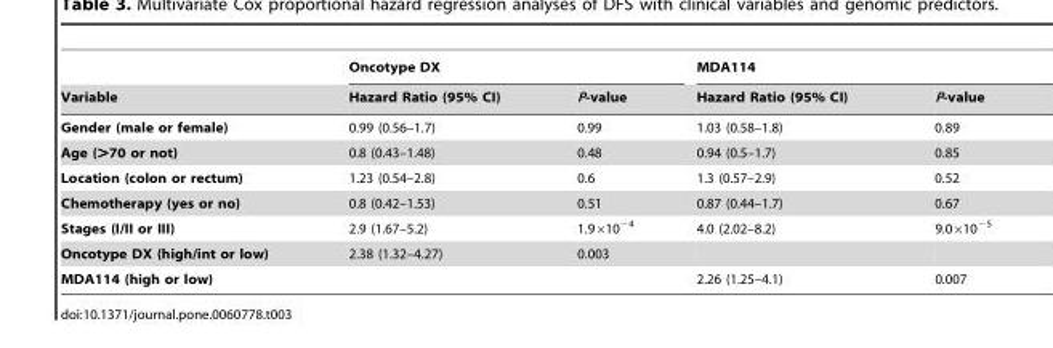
<table><thead><tr><td rowspan="2">Variable</td><td colspan="2">Oncotype DX</td><td colspan="2">MDA114</td></tr><tr><td>Hazard Ratio (95% CI)</td><td>P-value</td><td>Hazard Ratio (95% CI)</td><td>P-value</td></tr></thead><tbody><tr><td>Gender (male or female)</td><td>0.99 (0.56–1.7)</td><td>0.99</td><td>1.03 (0.58–1.8)</td><td>0.89</td></tr><tr><td>Age (&gt;70 or not)</td><td>0.8 (0.43–1.48)</td><td>0.48</td><td>0.94 (0.5–1.7)</td><td>0.85</td></tr><tr><td>Location (colon or rectum)</td><td>1.23 (0.54–2.8)</td><td>0.6</td><td>1.3 (0.57–2.9)</td><td>0.52</td></tr><tr><td>Chemotherapy (yes or no)</td><td>0.8 (0.42–1.53)</td><td>0.51</td><td>0.87 (0.44–1.7)</td><td>0.67</td></tr><tr><td>Stages (I/II or III)</td><td>2.9 (1.67–5.2)</td><td>1.9×10<sup>−4</sup></td><td>4.0 (2.02–8.2)</td><td>9.0×10<sup>−5</sup></td></tr><tr><td>Oncotype DX (high/int or low)</td><td>2.38 (1.32–4.27)</td><td>0.003</td><td></td><td></td></tr><tr><td>MDA114 (high or low)</td><td></td><td></td><td>2.26 (1.25–4.1)</td><td>0.007</td></tr></tbody></table>